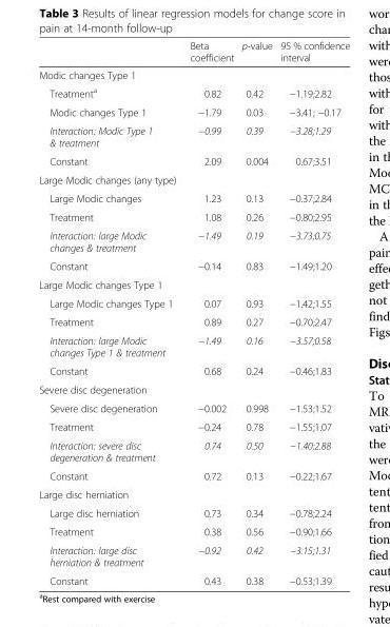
<table><thead><tr><td></td><td>Beta coefficient</td><td>p-value</td><td>95 % confidence interval</td></tr></thead><tbody><tr><td colspan="4">Modic changes Type 1</td></tr><tr><td>Treatment<sup>a</sup></td><td>0.82</td><td>0.42</td><td>−1.19;2.82</td></tr><tr><td>Modic changes Type 1</td><td>−1.79</td><td>0.03</td><td>−3.41; −0.17</td></tr><tr><td>Interaction: Modic Type 1 &amp; treatment</td><td>−0.99</td><td>0.39</td><td>−3.28;1.29</td></tr><tr><td>Constant</td><td>2.09</td><td>0.004</td><td>0.67;3.51</td></tr><tr><td colspan="4">Large Modic changes (any type)</td></tr><tr><td>Large Modic changes</td><td>1.23</td><td>0.13</td><td>−0.37;2.84</td></tr><tr><td>Treatment</td><td>1.08</td><td>0.26</td><td>−0.80;2.95</td></tr><tr><td>Interaction: large Modic changes &amp; treatment</td><td>−1.49</td><td>0.19</td><td>−3.73;0.75</td></tr><tr><td>Constant</td><td>−0.14</td><td>0.83</td><td>−1.49;1.20</td></tr><tr><td colspan="4">Large Modic changes Type 1</td></tr><tr><td>Large Modic changes Type 1</td><td>0.07</td><td>0.93</td><td>−1.42;1.55</td></tr><tr><td>Treatment</td><td>0.89</td><td>0.27</td><td>−0.70;2.47</td></tr><tr><td>Interaction: large Modic changes Type 1 &amp; treatment</td><td>−1.49</td><td>0.16</td><td>−3.57;0.58</td></tr><tr><td>Constant</td><td>0.68</td><td>0.24</td><td>−0.46;1.83</td></tr><tr><td colspan="4">Severe disc degeneration</td></tr><tr><td>Severe disc degeneration</td><td>−0.002</td><td>0.998</td><td>−1.53;1.52</td></tr><tr><td>Treatment</td><td>−0.24</td><td>0.78</td><td>−1.55;1.07</td></tr><tr><td>Interaction: severe disc degeneration &amp; treatment</td><td>0.74</td><td>0.50</td><td>−1.40;2.88</td></tr><tr><td>Constant</td><td>0.72</td><td>0.13</td><td>−0.22;1.67</td></tr><tr><td colspan="4">Large disc herniation</td></tr><tr><td>Large disc herniation</td><td>0.73</td><td>0.34</td><td>−0.78;2.24</td></tr><tr><td>Treatment</td><td>0.38</td><td>0.56</td><td>−0.90;1.66</td></tr><tr><td>Interaction: large disc herniation &amp; treatment</td><td>−0.92</td><td>0.42</td><td>−3.15;1.31</td></tr><tr><td>Constant</td><td>0.43</td><td>0.38</td><td>−0.53;1.39</td></tr></tbody></table>